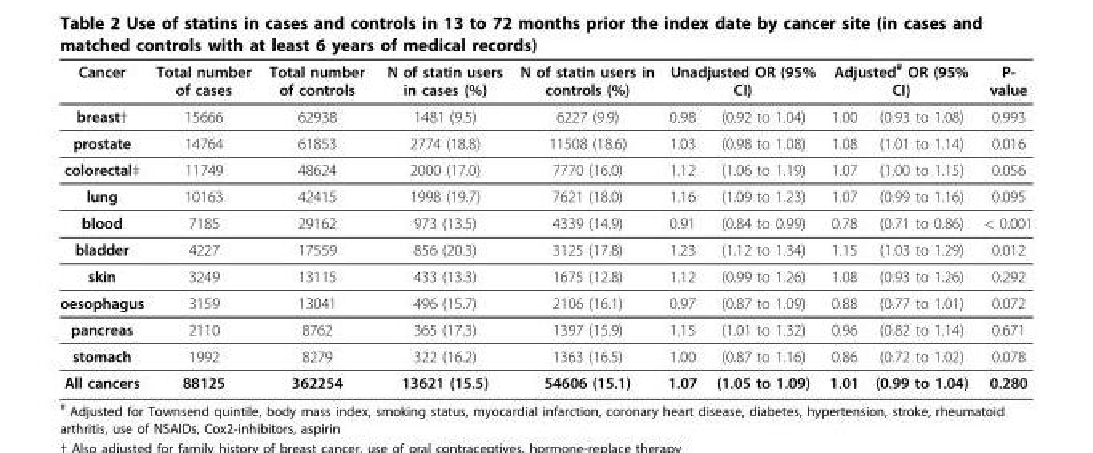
<table><thead><tr><td rowspan="2">Cancer breast†</td><td rowspan="2">Total number of cases 15666</td><td rowspan="2">Total number of controls 62938</td><td rowspan="2">N of statin users in cases (%) 1481 (9.5)</td><td rowspan="2">N of statin users in controls (%) 6227 (9.9)</td><td colspan="2">Unadjusted OR (95% CI)</td><td colspan="2">Adjusted# OR (95% CI)</td><td rowspan="2">P- value 0.993</td></tr><tr><td>0.98</td><td>(0.92 to 1.04)</td><td>1.00</td><td>(0.93 to 1.08)</td></tr></thead><tbody><tr><td>prostate</td><td>14764</td><td>61853</td><td>2774 (18.8)</td><td>11508 (18.6)</td><td>1.03</td><td>(0.98 to 1.08)</td><td>1.08</td><td>(1.01 to 1.14)</td><td>0.016</td></tr><tr><td>colorectal‡</td><td>11749</td><td>48624</td><td>2000 (17.0)</td><td>7770 (16.0)</td><td>1.12</td><td>(1.06 to 1.19)</td><td>1.07</td><td>(1.00 to 1.15)</td><td>0.056</td></tr><tr><td>lung</td><td>10163</td><td>42415</td><td>1998 (19.7)</td><td>7621 (18.0)</td><td>1.16</td><td>(1.09 to 1.23)</td><td>1.07</td><td>(0.99 to 1.16)</td><td>0.095</td></tr><tr><td>blood</td><td>7185</td><td>29162</td><td>973 (13.5)</td><td>4339 (14.9)</td><td>0.91</td><td>(0.84 to 0.99)</td><td>0.78</td><td>(0.71 to 0.86)</td><td>&lt; 0.001</td></tr><tr><td>bladder</td><td>4227</td><td>17559</td><td>856 (20.3)</td><td>3125 (17.8)</td><td>1.23</td><td>(1.12 to 1.34)</td><td>1.15</td><td>(1.03 to 1.29)</td><td>0.012</td></tr><tr><td>skin</td><td>3249</td><td>13115</td><td>433 (13.3)</td><td>1675 (12.8)</td><td>1.12</td><td>(0.99 to 1.26)</td><td>1.08</td><td>(0.93 to 1.26)</td><td>0.292</td></tr><tr><td>oesophagus</td><td>3159</td><td>13041</td><td>496 (15.7)</td><td>2106 (16.1)</td><td>0.97</td><td>(0.87 to 1.09)</td><td>0.88</td><td>(0.77 to 1.01)</td><td>0.072</td></tr><tr><td>pancreas</td><td>2110</td><td>8762</td><td>365 (17.3)</td><td>1397 (15.9)</td><td>1.15</td><td>(1.01 to 1.32)</td><td>0.96</td><td>(0.82 to 1.14)</td><td>0.671</td></tr><tr><td>stomach</td><td>1992</td><td>8279</td><td>322 (16.2)</td><td>1363 (16.5)</td><td>1.00</td><td>(0.87 to 1.16)</td><td>0.86</td><td>(0.72 to 1.02)</td><td>0.078</td></tr><tr><td>All cancers</td><td>88125</td><td>362254</td><td>13621 (15.5)</td><td>54606 (15.1)</td><td>1.07</td><td>(1.05 to 1.09)</td><td>1.01</td><td>(0.99 to 1.04)</td><td>0.280</td></tr></tbody></table>